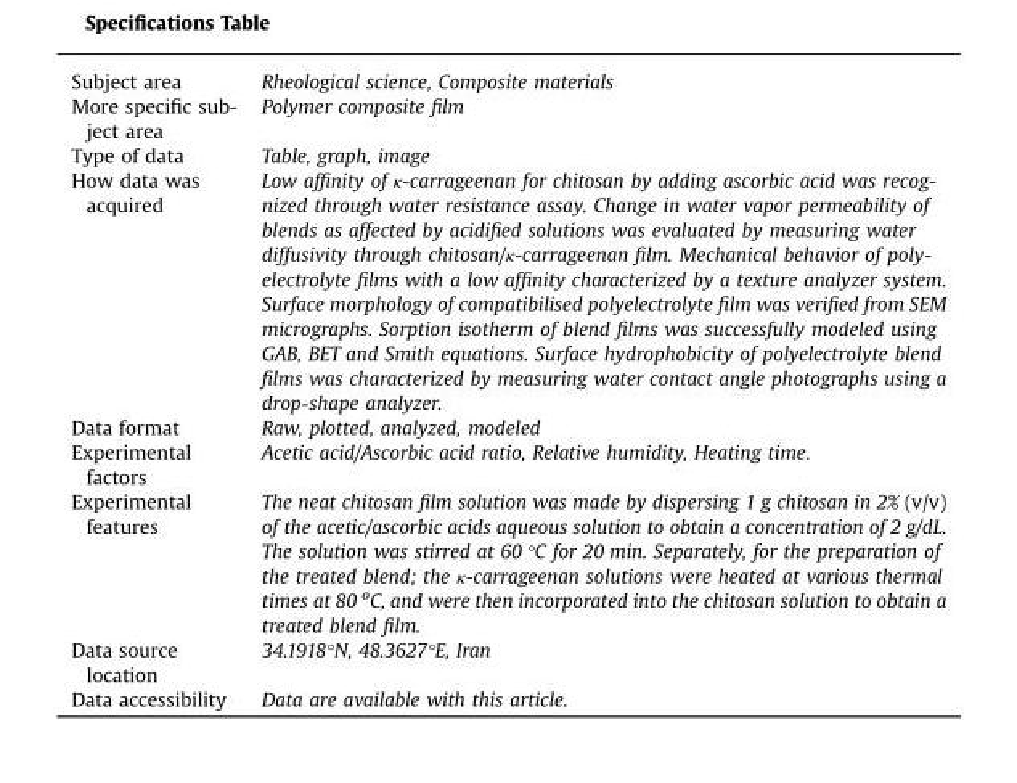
<table><tbody><tr><td>Subject area</td><td>Rheological science, Composite materials</td></tr><tr><td>More specific sub- ject area</td><td>Polymer composite film</td></tr><tr><td>Type of data</td><td>Table, graph, image</td></tr><tr><td>How data was acquired</td><td>Low affinity of κ-carrageenan for chitosan by adding ascorbic acid was recog- nized through water resistance assay. Change in water vapor permeability of blends as affected by acidified solutions was evaluated by measuring water diffusivity through chitosan/κ-carrageenan film. Mechanical behavior of poly- electrolyte films with a low affinity characterized by a texture analyzer system. Surface morphology of compatibilised polyelectrolyte film was verified from SEM micrographs. Sorption isotherm of blend films was successfully modeled using GAB, BET and Smith equations. Surface hydrophobicity of polyelectrolyte blend films was characterized by measuring water contact angle photographs using a drop-shape analyzer.</td></tr><tr><td>Data format</td><td>Raw, plotted, analyzed, modeled</td></tr><tr><td>Experimental factors</td><td>Acetic acid/Ascorbic acid ratio, Relative humidity, Heating time.</td></tr><tr><td>Experimental features</td><td>The neat chitosan film solution was made by dispersing 1 g chitosan in 2% (v/v) of the acetic/ascorbic acids aqueous solution to obtain a concentration of 2 g/dL. The solution was stirred at 60 °C for 20 min. Separately, for the preparation of the treated blend; the κ-carrageenan solutions were heated at various thermal times at 80 <sup>o</sup>C, and were then incorporated into the chitosan solution to obtain a treated blend film.</td></tr><tr><td>Data source location</td><td>34.1918°N, 48.3627°E, Iran</td></tr><tr><td>Data accessibility</td><td>Data are available with this article.</td></tr></tbody></table>